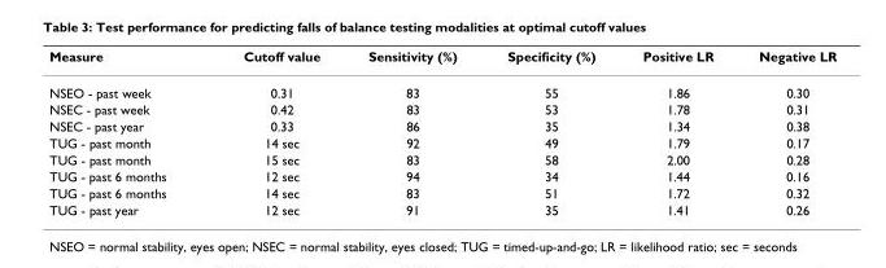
<table><thead><tr><td>Measure</td><td>Cutoff value</td><td>Sensitivity (%)</td><td>Specificity (%)</td><td>Positive LR</td><td>Negative LR</td></tr></thead><tbody><tr><td>NSEO - past week</td><td>0.31</td><td>83</td><td>55</td><td>1.86</td><td>0.30</td></tr><tr><td>NSEC - past week</td><td>0.42</td><td>83</td><td>53</td><td>1.78</td><td>0.31</td></tr><tr><td>NSEC - past year</td><td>0.33</td><td>86</td><td>35</td><td>1.34</td><td>0.38</td></tr><tr><td>TUG - past month</td><td>14 sec</td><td>92</td><td>49</td><td>1.79</td><td>0.17</td></tr><tr><td>TUG - past month</td><td>15 sec</td><td>83</td><td>58</td><td>2.00</td><td>0.28</td></tr><tr><td>TUG - past 6 months</td><td>12 sec</td><td>94</td><td>34</td><td>1.44</td><td>0.16</td></tr><tr><td>TUG - past 6 months</td><td>14 sec</td><td>83</td><td>51</td><td>1.72</td><td>0.32</td></tr><tr><td>TUG - past year</td><td>12 sec</td><td>91</td><td>35</td><td>1.41</td><td>0.26</td></tr></tbody></table>